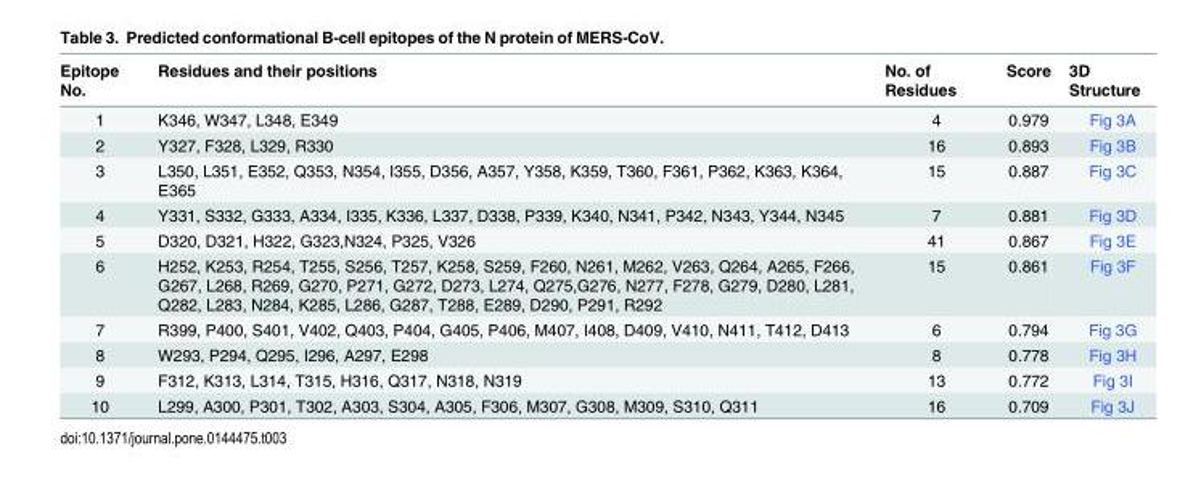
<table><thead><tr><td>Epitope No.</td><td>Residues and their positions</td><td>No. of Residues</td><td>Score</td><td>3D Structure</td></tr></thead><tbody><tr><td>1</td><td>K346, W347, L348, E349</td><td>4</td><td>0.979</td><td>Fig 3A</td></tr><tr><td>2</td><td>Y327, F328, L329, R330</td><td>16</td><td>0.893</td><td>Fig 3B</td></tr><tr><td>3</td><td>L350, L351, E352, Q353, N354, I355, D356, A357, Y358, K359, T360, F361, P362, K363, K364, E365</td><td>15</td><td>0.887</td><td>Fig 3C</td></tr><tr><td>4</td><td>Y331, S332, G333, A334, I335, K336, L337, D338, P339, K340, N341, P342, N343, Y344, N345</td><td>7</td><td>0.881</td><td>Fig 3D</td></tr><tr><td>5</td><td>D320, D321, H322, G323,N324, P325, V326</td><td>41</td><td>0.867</td><td>Fig 3E</td></tr><tr><td>6</td><td>H252, K253, R254, T255, S256, T257, K258, S259, F260, N261, M262, V263, Q264, A265, F266, G267, L268, R269, G270, P271, G272, D273, L274, Q275,G276, N277, F278, G279, D280, L281, Q282, L283, N284, K285, L286, G287, T288, E289, D290, P291, R292</td><td>15</td><td>0.861</td><td>Fig 3F</td></tr><tr><td>7</td><td>R399, P400, S401, V402, Q403, P404, G405, P406, M407, I408, D409, V410, N411, T412, D413</td><td>6</td><td>0.794</td><td>Fig 3G</td></tr><tr><td>8</td><td>W293, P294, Q295, I296, A297, E298</td><td>8</td><td>0.778</td><td>Fig 3H</td></tr><tr><td>9</td><td>F312, K313, L314, T315, H316, Q317, N318, N319</td><td>13</td><td>0.772</td><td>Fig 3I</td></tr><tr><td>10</td><td>L299, A300, P301, T302, A303, S304, A305, F306, M307, G308, M309, S310, Q311</td><td>16</td><td>0.709</td><td>Fig 3J</td></tr></tbody></table>